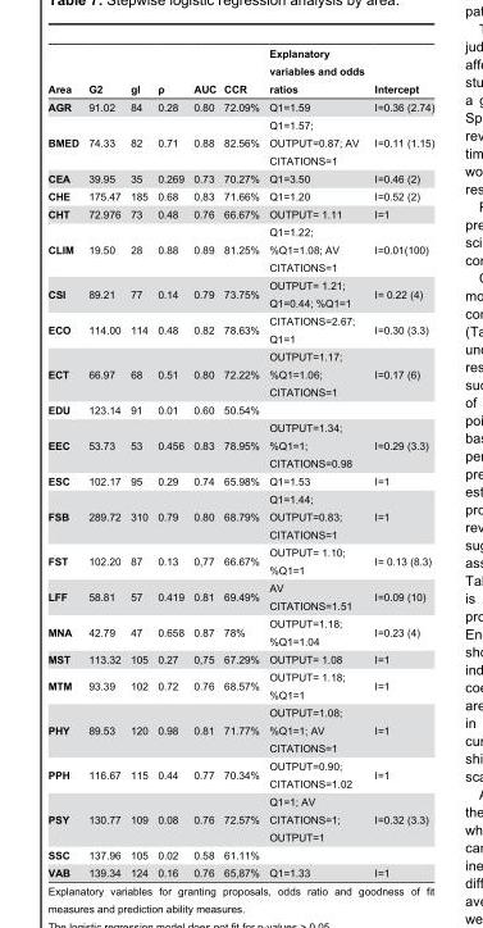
<table><thead><tr><td>Area</td><td>G2</td><td>gl</td><td>ρ</td><td>AUC</td><td>CCR</td><td>Explanatory variables and odds ratios</td><td>Intercept</td></tr></thead><tbody><tr><td>AGR</td><td>91.02</td><td>84</td><td>0.28</td><td>0.80</td><td>72.09%</td><td>Q1=1.59</td><td>I=0.36 (2.74)</td></tr><tr><td>BMED</td><td>74.33</td><td>82</td><td>0.71</td><td>0.88</td><td>82.56%</td><td>Q1=1.57; OUTPUT=0.87; AV CITATIONS=1</td><td>I=0.11 (1.15)</td></tr><tr><td>CEA</td><td>39.95</td><td>35</td><td>0.269</td><td>0.73</td><td>70.27%</td><td>Q1=3.50</td><td>I=0.46 (2)</td></tr><tr><td>CHE</td><td>175.47</td><td>185</td><td>0.68</td><td>0,83</td><td>71.66%</td><td>Q1=1.20</td><td>I=0.52 (2)</td></tr><tr><td>CHT</td><td>72.976</td><td>73</td><td>0.48</td><td>0.76</td><td>66.67%</td><td>OUTPUT= 1.11</td><td>I=1</td></tr><tr><td>CLIM</td><td>19.50</td><td>28</td><td>0.88</td><td>0.89</td><td>81.25%</td><td>Q1=1.22; %Q1=1.08; AV CITATIONS=1</td><td>I=0.01(100)</td></tr><tr><td>CSI</td><td>89.21</td><td>77</td><td>0.14</td><td>0.79</td><td>73.75%</td><td>OUTPUT= 1.21; Q1=0.44; %Q1=1</td><td>I= 0.22 (4)</td></tr><tr><td>ECO</td><td>114.00</td><td>114</td><td>0.48</td><td>0.82</td><td>78.63%</td><td>CITATIONS=2.67; Q1=1</td><td>I=0.30 (3.3)</td></tr><tr><td>ECT</td><td>66.97</td><td>68</td><td>0.51</td><td>0.80</td><td>72.22%</td><td>OUTPUT=1.17; %Q1=1.06; CITATIONS=1</td><td>I=0.17 (6)</td></tr><tr><td>EDU</td><td>123.14</td><td>91</td><td>0.01</td><td>0.60</td><td>50.54%</td><td></td><td></td></tr><tr><td>EEC</td><td>53.73</td><td>53</td><td>0.456</td><td>0.83</td><td>78.95%</td><td>OUTPUT=1.34; %Q1=1; CITATIONS=0.98</td><td>I=0.29 (3.3)</td></tr><tr><td>ESC</td><td>102.17</td><td>95</td><td>0.29</td><td>0.74</td><td>65.98%</td><td>Q1=1.53</td><td>I=1</td></tr><tr><td>FSB</td><td>289.72</td><td>310</td><td>0.79</td><td>0.80</td><td>68.79%</td><td>Q1=1.44; OUTPUT=0.83; CITATIONS=1</td><td>I=1</td></tr><tr><td>FST</td><td>102.20</td><td>87</td><td>0.13</td><td>0,77</td><td>66.67%</td><td>OUTPUT= 1.10; %Q1=1</td><td>I= 0.13 (8.3)</td></tr><tr><td>LFF</td><td>58.81</td><td>57</td><td>0.419</td><td>0.81</td><td>69.49%</td><td>AV CITATIONS=1.51</td><td>I=0.09 (10)</td></tr><tr><td>MNA</td><td>42.79</td><td>47</td><td>0.658</td><td>0.87</td><td>78%</td><td>OUTPUT=1.18; %Q1=1.04</td><td>I=0.23 (4)</td></tr><tr><td>MST</td><td>113.32</td><td>105</td><td>0.27</td><td>0,75</td><td>67.29%</td><td>OUTPUT= 1.08</td><td>I=1</td></tr><tr><td>MTM</td><td>93.39</td><td>102</td><td>0.72</td><td>0.76</td><td>68.57%</td><td>OUTPUT= 1.18; %Q1=1</td><td>I=1</td></tr><tr><td>PHY</td><td>89.53</td><td>120</td><td>0.98</td><td>0.81</td><td>71.77%</td><td>OUTPUT=1.08; %Q1=1; AV CITATIONS=1</td><td>I=1</td></tr><tr><td>PPH</td><td>116.67</td><td>115</td><td>0.44</td><td>0.77</td><td>70.34%</td><td>OUTPUT=0.90; CITATIONS=1.02</td><td>I=1</td></tr><tr><td>PSY</td><td>130.77</td><td>109</td><td>0.08</td><td>0.76</td><td>72.57%</td><td>Q1=1; AV CITATIONS=1; OUTPUT=1</td><td>I=0.32 (3.3)</td></tr><tr><td>SSC</td><td>137.96</td><td>105</td><td>0.02</td><td>0.58</td><td>61.11%</td><td></td><td></td></tr><tr><td>VAB</td><td>139.34</td><td>124</td><td>0.16</td><td>0.76</td><td>65,87%</td><td>Q1=1.33</td><td>I=1</td></tr></tbody></table>